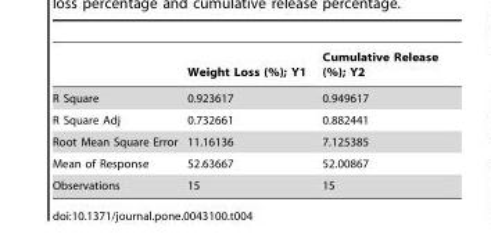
<table><thead><tr><td></td><td>Weight Loss (%); Y1</td><td>Cumulative Release (%); Y2</td></tr></thead><tbody><tr><td>R Square</td><td>0.923617</td><td>0.949617</td></tr><tr><td>R Square Adj</td><td>0.732661</td><td>0.882441</td></tr><tr><td>Root Mean Square Error</td><td>11.16136</td><td>7.125385</td></tr><tr><td>Mean of Response</td><td>52.63667</td><td>52.00867</td></tr><tr><td>Observations</td><td>15</td><td>15</td></tr></tbody></table>